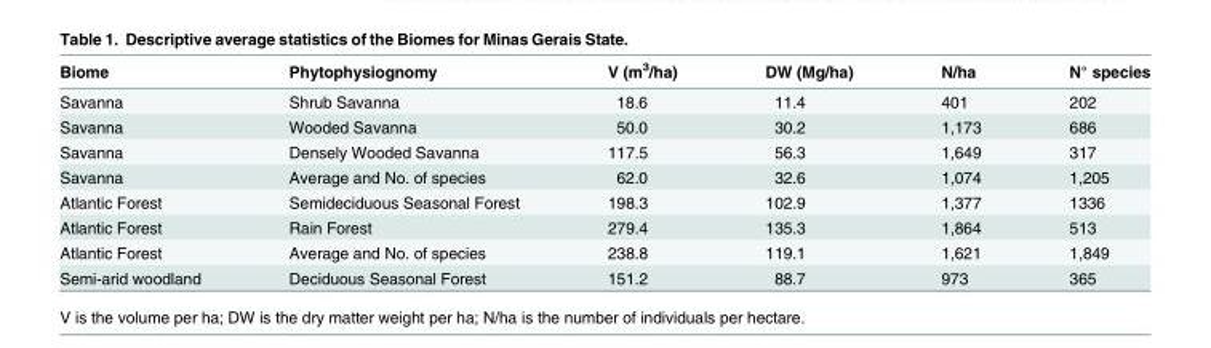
<table><thead><tr><td>Biome</td><td>Phytophysiognomy</td><td>V (m<sup>3</sup>/ha)</td><td>DW (Mg/ha)</td><td>N/ha</td><td>N° species</td></tr></thead><tbody><tr><td>Savanna</td><td>Shrub Savanna</td><td>18.6</td><td>11.4</td><td>401</td><td>202</td></tr><tr><td>Savanna</td><td>Wooded Savanna</td><td>50.0</td><td>30.2</td><td>1,173</td><td>686</td></tr><tr><td>Savanna</td><td>Densely Wooded Savanna</td><td>117.5</td><td>56.3</td><td>1,649</td><td>317</td></tr><tr><td>Savanna</td><td>Average and No. of species</td><td>62.0</td><td>32.6</td><td>1,074</td><td>1,205</td></tr><tr><td>Atlantic Forest</td><td>Semideciduous Seasonal Forest</td><td>198.3</td><td>102.9</td><td>1,377</td><td>1336</td></tr><tr><td>Atlantic Forest</td><td>Rain Forest</td><td>279.4</td><td>135.3</td><td>1,864</td><td>513</td></tr><tr><td>Atlantic Forest</td><td>Average and No. of species</td><td>238.8</td><td>119.1</td><td>1,621</td><td>1,849</td></tr><tr><td>Semi-arid woodland</td><td>Deciduous Seasonal Forest</td><td>151.2</td><td>88.7</td><td>973</td><td>365</td></tr></tbody></table>